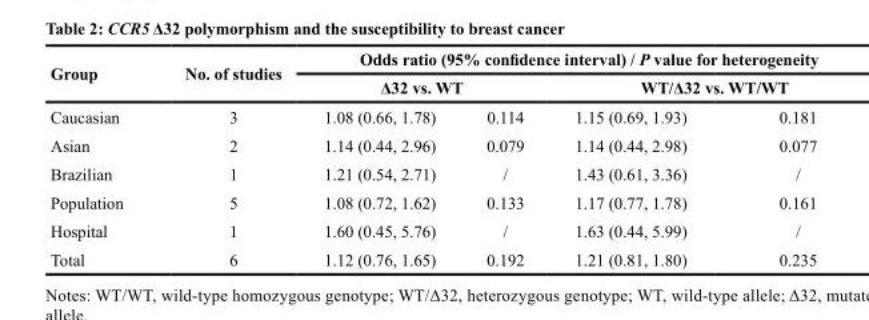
<table><thead><tr><td rowspan="3">Group Caucasian</td><td rowspan="3">No. of studies 3</td><td colspan="4">Odds ratio (95% confidence interval) / P value for heterogeneity</td></tr><tr><td colspan="2">Δ32 vs. WT</td><td colspan="2">WT/Δ32 vs. WT/WT</td></tr><tr><td>1.08 (0.66, 1.78)</td><td>0.114</td><td>1.15 (0.69, 1.93)</td><td>0.181</td></tr></thead><tbody><tr><td>Asian</td><td>2</td><td>1.14 (0.44, 2.96)</td><td>0.079</td><td>1.14 (0.44, 2.98)</td><td>0.077</td></tr><tr><td>Brazilian</td><td>1</td><td>1.21 (0.54, 2.71)</td><td>/</td><td>1.43 (0.61, 3.36)</td><td>/</td></tr><tr><td>Population</td><td>5</td><td>1.08 (0.72, 1.62)</td><td>0.133</td><td>1.17 (0.77, 1.78)</td><td>0.161</td></tr><tr><td>Hospital</td><td>1</td><td>1.60 (0.45, 5.76)</td><td>/</td><td>1.63 (0.44, 5.99)</td><td>/</td></tr><tr><td>Total</td><td>6</td><td>1.12 (0.76, 1.65)</td><td>0.192</td><td>1.21 (0.81, 1.80)</td><td>0.235</td></tr></tbody></table>